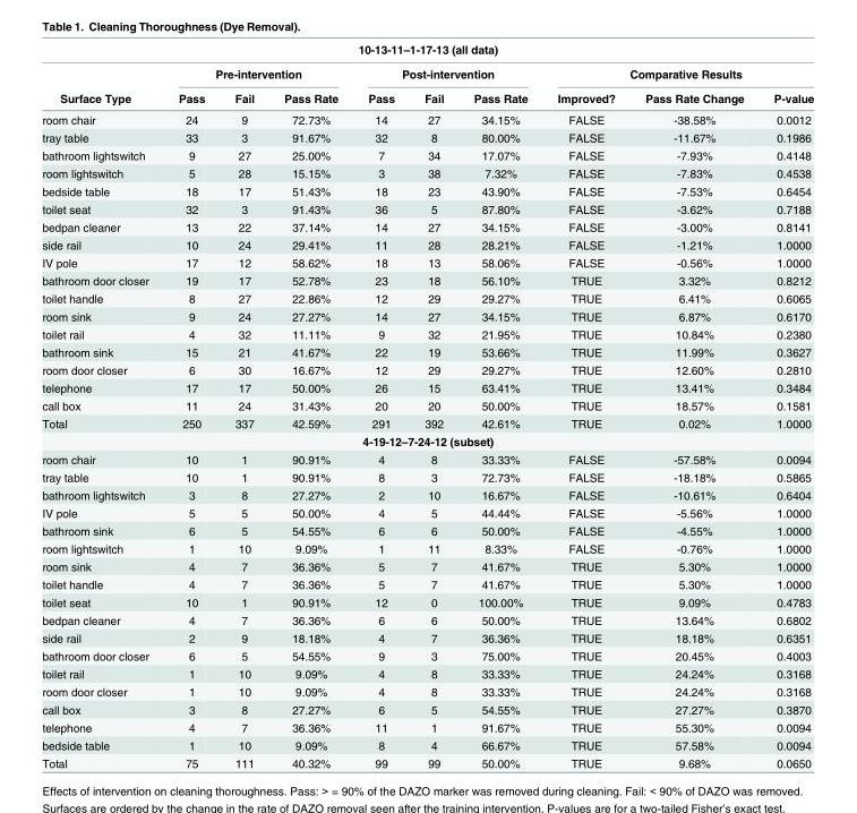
<table><thead><tr><td colspan="10">10-13-11–1-17-13 (all data)</td></tr><tr><td rowspan="2">Surface Type</td><td colspan="3">Pre-intervention</td><td colspan="3">Post-intervention</td><td colspan="3">Comparative Results</td></tr><tr><td>Pass</td><td>Fail</td><td>Pass Rate</td><td>Pass</td><td>Fail</td><td>Pass Rate</td><td>Improved?</td><td>Pass Rate Change</td><td>P-value</td></tr></thead><tbody><tr><td>room chair</td><td>24</td><td>9</td><td>72.73%</td><td>14</td><td>27</td><td>34.15%</td><td>FALSE</td><td>-38.58%</td><td>0.0012</td></tr><tr><td>tray table</td><td>33</td><td>3</td><td>91.67%</td><td>32</td><td>8</td><td>80.00%</td><td>FALSE</td><td>-11.67%</td><td>0.1986</td></tr><tr><td>bathroom lightswitch</td><td>9</td><td>27</td><td>25.00%</td><td>7</td><td>34</td><td>17.07%</td><td>FALSE</td><td>-7.93%</td><td>0.4148</td></tr><tr><td>room lightswitch</td><td>5</td><td>28</td><td>15.15%</td><td>3</td><td>38</td><td>7.32%</td><td>FALSE</td><td>-7.83%</td><td>0.4538</td></tr><tr><td>bedside table</td><td>18</td><td>17</td><td>51.43%</td><td>18</td><td>23</td><td>43.90%</td><td>FALSE</td><td>-7.53%</td><td>0.6454</td></tr><tr><td>toilet seat</td><td>32</td><td>3</td><td>91.43%</td><td>36</td><td>5</td><td>87.80%</td><td>FALSE</td><td>-3.62%</td><td>0.7188</td></tr><tr><td>bedpan cleaner</td><td>13</td><td>22</td><td>37.14%</td><td>14</td><td>27</td><td>34.15%</td><td>FALSE</td><td>-3.00%</td><td>0.8141</td></tr><tr><td>side rail</td><td>10</td><td>24</td><td>29.41%</td><td>11</td><td>28</td><td>28.21%</td><td>FALSE</td><td>-1.21%</td><td>1.0000</td></tr><tr><td>IV pole</td><td>17</td><td>12</td><td>58.62%</td><td>18</td><td>13</td><td>58.06%</td><td>FALSE</td><td>-0.56%</td><td>1.0000</td></tr><tr><td>bathroom door closer</td><td>19</td><td>17</td><td>52.78%</td><td>23</td><td>18</td><td>56.10%</td><td>TRUE</td><td>3.32%</td><td>0.8212</td></tr><tr><td>toilet handle</td><td>8</td><td>27</td><td>22.86%</td><td>12</td><td>29</td><td>29.27%</td><td>TRUE</td><td>6.41%</td><td>0.6065</td></tr><tr><td>room sink</td><td>9</td><td>24</td><td>27.27%</td><td>14</td><td>27</td><td>34.15%</td><td>TRUE</td><td>6.87%</td><td>0.6170</td></tr><tr><td>toilet rail</td><td>4</td><td>32</td><td>11.11%</td><td>9</td><td>32</td><td>21.95%</td><td>TRUE</td><td>10.84%</td><td>0.2380</td></tr><tr><td>bathroom sink</td><td>15</td><td>21</td><td>41.67%</td><td>22</td><td>19</td><td>53.66%</td><td>TRUE</td><td>11.99%</td><td>0.3627</td></tr><tr><td>room door closer</td><td>6</td><td>30</td><td>16.67%</td><td>12</td><td>29</td><td>29.27%</td><td>TRUE</td><td>12.60%</td><td>0.2810</td></tr><tr><td>telephone</td><td>17</td><td>17</td><td>50.00%</td><td>26</td><td>15</td><td>63.41%</td><td>TRUE</td><td>13.41%</td><td>0.3484</td></tr><tr><td>call box</td><td>11</td><td>24</td><td>31.43%</td><td>20</td><td>20</td><td>50.00%</td><td>TRUE</td><td>18.57%</td><td>0.1581</td></tr><tr><td>Total</td><td>250</td><td>337</td><td>42.59%</td><td>291</td><td>392</td><td>42.61%</td><td>TRUE</td><td>0.02%</td><td>1.0000</td></tr><tr><td colspan="10">4-19-12–7-24-12 (subset)</td></tr><tr><td>room chair</td><td>10</td><td>1</td><td>90.91%</td><td>4</td><td>8</td><td>33.33%</td><td>FALSE</td><td>-57.58%</td><td>0.0094</td></tr><tr><td>tray table</td><td>10</td><td>1</td><td>90.91%</td><td>8</td><td>3</td><td>72.73%</td><td>FALSE</td><td>-18.18%</td><td>0.5865</td></tr><tr><td>bathroom lightswitch</td><td>3</td><td>8</td><td>27.27%</td><td>2</td><td>10</td><td>16.67%</td><td>FALSE</td><td>-10.61%</td><td>0.6404</td></tr><tr><td>IV pole</td><td>5</td><td>5</td><td>50.00%</td><td>4</td><td>5</td><td>44.44%</td><td>FALSE</td><td>-5.56%</td><td>1.0000</td></tr><tr><td>bathroom sink</td><td>6</td><td>5</td><td>54.55%</td><td>6</td><td>6</td><td>50.00%</td><td>FALSE</td><td>-4.55%</td><td>1.0000</td></tr><tr><td>room lightswitch</td><td>1</td><td>10</td><td>9.09%</td><td>1</td><td>11</td><td>8.33%</td><td>FALSE</td><td>-0.76%</td><td>1.0000</td></tr><tr><td>room sink</td><td>4</td><td>7</td><td>36.36%</td><td>5</td><td>7</td><td>41.67%</td><td>TRUE</td><td>5.30%</td><td>1.0000</td></tr><tr><td>toilet handle</td><td>4</td><td>7</td><td>36.36%</td><td>5</td><td>7</td><td>41.67%</td><td>TRUE</td><td>5.30%</td><td>1.0000</td></tr><tr><td>toilet seat</td><td>10</td><td>1</td><td>90.91%</td><td>12</td><td>0</td><td>100.00%</td><td>TRUE</td><td>9.09%</td><td>0.4783</td></tr><tr><td>bedpan cleaner</td><td>4</td><td>7</td><td>36.36%</td><td>6</td><td>6</td><td>50.00%</td><td>TRUE</td><td>13.64%</td><td>0.6802</td></tr><tr><td>side rail</td><td>2</td><td>9</td><td>18.18%</td><td>4</td><td>7</td><td>36.36%</td><td>TRUE</td><td>18.18%</td><td>0.6351</td></tr><tr><td>bathroom door closer</td><td>6</td><td>5</td><td>54.55%</td><td>9</td><td>3</td><td>75.00%</td><td>TRUE</td><td>20.45%</td><td>0.4003</td></tr><tr><td>toilet rail</td><td>1</td><td>10</td><td>9.09%</td><td>4</td><td>8</td><td>33.33%</td><td>TRUE</td><td>24.24%</td><td>0.3168</td></tr><tr><td>room door closer</td><td>1</td><td>10</td><td>9.09%</td><td>4</td><td>8</td><td>33.33%</td><td>TRUE</td><td>24.24%</td><td>0.3168</td></tr><tr><td>call box</td><td>3</td><td>8</td><td>27.27%</td><td>6</td><td>5</td><td>54.55%</td><td>TRUE</td><td>27.27%</td><td>0.3870</td></tr><tr><td>telephone</td><td>4</td><td>7</td><td>36.36%</td><td>11</td><td>1</td><td>91.67%</td><td>TRUE</td><td>55.30%</td><td>0.0094</td></tr><tr><td>bedside table</td><td>1</td><td>10</td><td>9.09%</td><td>8</td><td>4</td><td>66.67%</td><td>TRUE</td><td>57.58%</td><td>0.0094</td></tr><tr><td>Total</td><td>75</td><td>111</td><td>40.32%</td><td>99</td><td>99</td><td>50.00%</td><td>TRUE</td><td>9.68%</td><td>0.0650</td></tr></tbody></table>